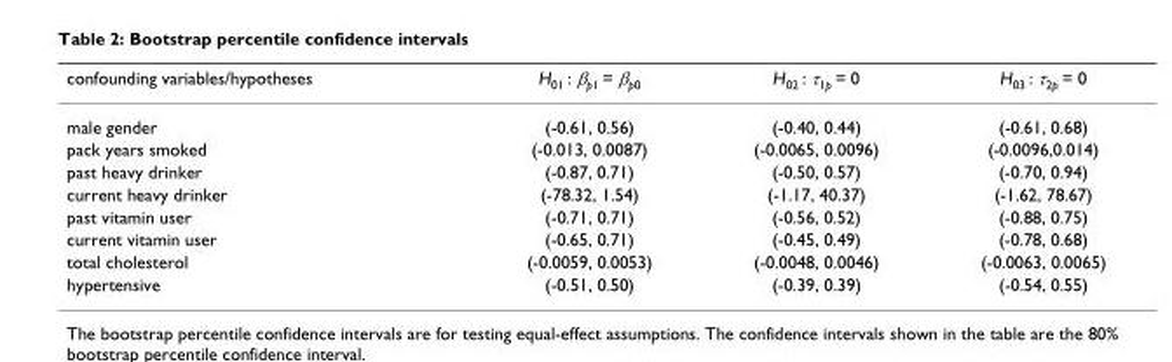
<table><thead><tr><td>confounding variables/hypotheses</td><td>H<sub>01</sub> : β<sub>p1</sub> = β<sub>p0</sub></td><td>H<sub>02</sub> : τ<sub>1p</sub> = 0</td><td>H<sub>03</sub> : τ<sub>2p</sub> = 0</td></tr></thead><tbody><tr><td>male gender</td><td>(-0.61, 0.56)</td><td>(-0.40, 0.44)</td><td>(-0.61, 0.68)</td></tr><tr><td>pack years smoked</td><td>(-0.013, 0.0087)</td><td>(-0.0065, 0.0096)</td><td>(-0.0096,0.014)</td></tr><tr><td>past heavy drinker</td><td>(-0.87, 0.71)</td><td>(-0.50, 0.57)</td><td>(-0.70, 0.94)</td></tr><tr><td>current heavy drinker</td><td>(-78.32, 1.54)</td><td>(-1.17, 40.37)</td><td>(-1.62, 78.67)</td></tr><tr><td>past vitamin user</td><td>(-0.71, 0.71)</td><td>(-0.56, 0.52)</td><td>(-0.88, 0.75)</td></tr><tr><td>current vitamin user</td><td>(-0.65, 0.71)</td><td>(-0.45, 0.49)</td><td>(-0.78, 0.68)</td></tr><tr><td>total cholesterol</td><td>(-0.0059, 0.0053)</td><td>(-0.0048, 0.0046)</td><td>(-0.0063, 0.0065)</td></tr><tr><td>hypertensive</td><td>(-0.51, 0.50)</td><td>(-0.39, 0.39)</td><td>(-0.54, 0.55)</td></tr></tbody></table>